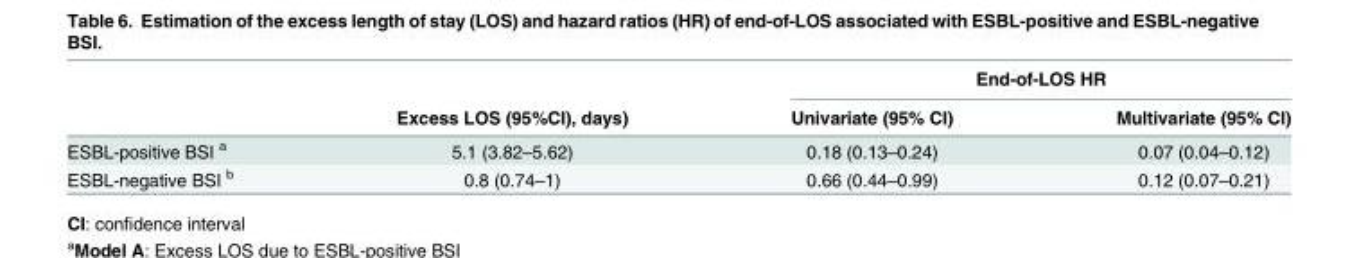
<table><thead><tr><td rowspan="2"></td><td rowspan="2">Excess LOS (95%CI), days)</td><td colspan="2">End-of-LOS HR</td></tr><tr><td>Univariate (95% CI)</td><td>Multivariate (95% CI)</td></tr></thead><tbody><tr><td>ESBL-positive BSI <sup>a</sup></td><td>5.1 (3.82–5.62)</td><td>0.18 (0.13–0.24)</td><td>0.07 (0.04–0.12)</td></tr><tr><td>ESBL-negative BSI <sup>b</sup></td><td>0.8 (0.74–1)</td><td>0.66 (0.44–0.99)</td><td>0.12 (0.07–0.21)</td></tr></tbody></table>